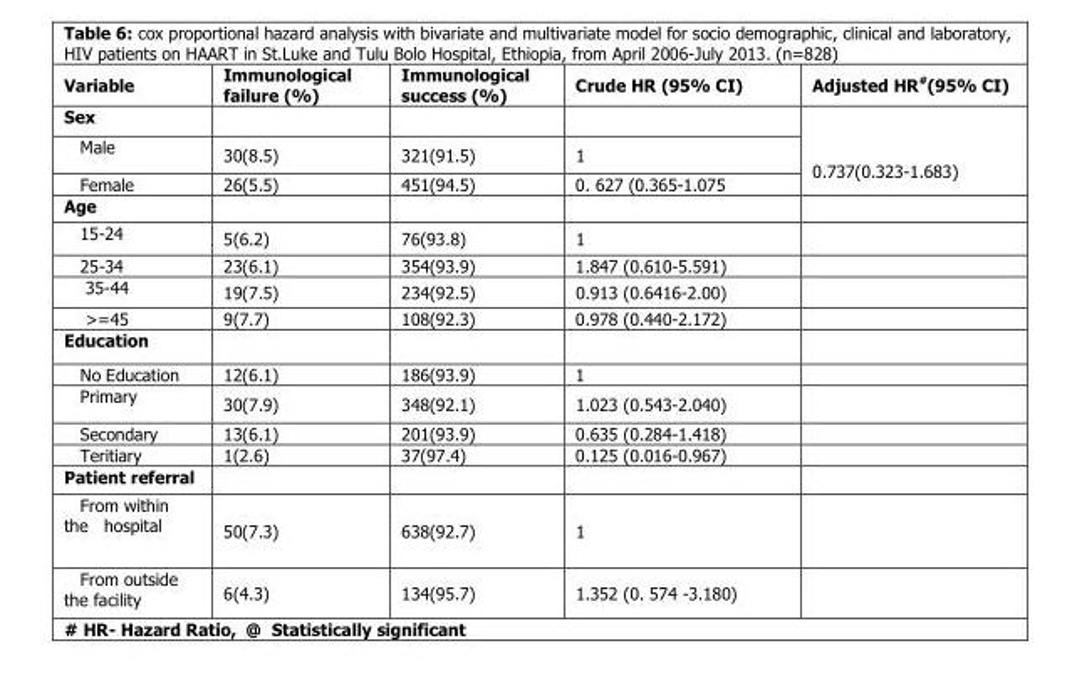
<table><thead><tr><td>Variable</td><td>Immunological failure (%)</td><td>Immunological success (%)</td><td>Crude HR (95% CI)</td><td>Adjusted HR#(95% CI)</td></tr></thead><tbody><tr><td colspan="4">Sex</td><td rowspan="3">0.737(0.323-1.683)</td></tr><tr><td>Male</td><td>30(8.5)</td><td>321(91.5)</td><td>1</td></tr><tr><td>Female</td><td>26(5.5)</td><td>451(94.5)</td><td>0. 627 (0.365-1.075</td></tr><tr><td colspan="5">Age</td></tr><tr><td>15-24</td><td>5(6.2)</td><td>76(93.8)</td><td>1</td><td></td></tr><tr><td>25-34</td><td>23(6.1)</td><td>354(93.9)</td><td>1.847 (0.610-5.591)</td><td></td></tr><tr><td>35-44</td><td>19(7.5)</td><td>234(92.5)</td><td>0.913 (0.6416-2.00)</td><td></td></tr><tr><td>&gt;=45</td><td>9(7.7)</td><td>108(92.3)</td><td>0.978 (0.440-2.172)</td><td></td></tr><tr><td colspan="5">Education</td></tr><tr><td>No Education</td><td>12(6.1)</td><td>186(93.9)</td><td>1</td><td></td></tr><tr><td>Primary</td><td>30(7.9)</td><td>348(92.1)</td><td>1.023 (0.543-2.040)</td><td></td></tr><tr><td>Secondary</td><td>13(6.1)</td><td>201(93.9)</td><td>0.635 (0.284-1.418)</td><td></td></tr><tr><td>Teritiary</td><td>1(2.6)</td><td>37(97.4)</td><td>0.125 (0.016-0.967)</td><td></td></tr><tr><td colspan="5">Patient referral</td></tr><tr><td>From within the hospital</td><td>50(7.3)</td><td>638(92.7)</td><td>1</td><td></td></tr><tr><td>From outside the facility</td><td>6(4.3)</td><td>134(95.7)</td><td>1.352 (0. 574 -3.180)</td><td></td></tr></tbody></table>